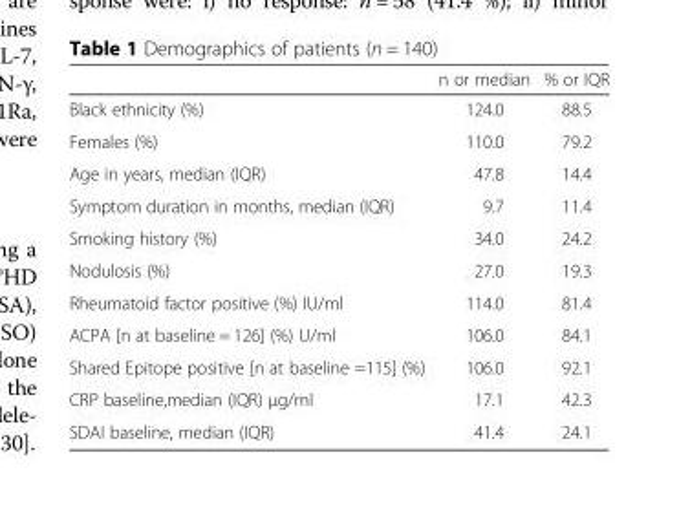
<table><thead><tr><td></td><td>n or median</td><td>% or IQR</td></tr></thead><tbody><tr><td>Black ethnicity (%)</td><td>124.0</td><td>88.5</td></tr><tr><td>Females (%)</td><td>110.0</td><td>79.2</td></tr><tr><td>Age in years, median (IQR)</td><td>47.8</td><td>14.4</td></tr><tr><td>Symptom duration in months, median (IQR)</td><td>9.7</td><td>11.4</td></tr><tr><td>Smoking history (%)</td><td>34.0</td><td>24.2</td></tr><tr><td>Nodulosis (%)</td><td>27.0</td><td>19.3</td></tr><tr><td>Rheumatoid factor positive (%) IU/ml</td><td>114.0</td><td>81.4</td></tr><tr><td>ACPA [n at baseline = 126] (%) U/ml</td><td>106.0</td><td>84.1</td></tr><tr><td>Shared Epitope positive [n at baseline =115] (%)</td><td>106.0</td><td>92.1</td></tr><tr><td>CRP baseline,median (IQR) μg/ml</td><td>17.1</td><td>42.3</td></tr><tr><td>SDAI baseline, median (IQR)</td><td>41.4</td><td>24.1</td></tr></tbody></table>